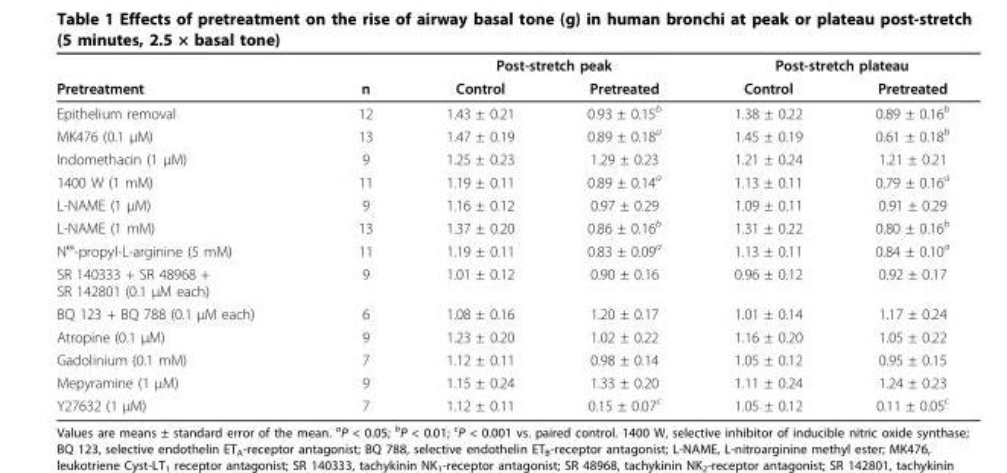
<table><thead><tr><td rowspan="2">Pretreatment</td><td rowspan="2">n</td><td colspan="2">Post-stretch peak</td><td colspan="2">Post-stretch plateau</td></tr><tr><td>Control</td><td>Pretreated</td><td>Control</td><td>Pretreated</td></tr></thead><tbody><tr><td>Epithelium removal</td><td>12</td><td>1.43 ± 0.21</td><td>0.93 ± 0.15<sup>b</sup></td><td>1.38 ± 0.22</td><td>0.89 ± 0.16<sup>b</sup></td></tr><tr><td>MK476 (0.1 μM)</td><td>13</td><td>1.47 ± 0.19</td><td>0.89 ± 0.18<sup>a</sup></td><td>1.45 ± 0.19</td><td>0.61 ± 0.18<sup>b</sup></td></tr><tr><td>Indomethacin (1 μM)</td><td>9</td><td>1.25 ± 0.23</td><td>1.29 ± 0.23</td><td>1.21 ± 0.24</td><td>1.21 ± 0.21</td></tr><tr><td>1400 W (1 mM)</td><td>11</td><td>1.19 ± 0.11</td><td>0.89 ± 0.14<sup>a</sup></td><td>1.13 ± 0.11</td><td>0.79 ± 0.16<sup>a</sup></td></tr><tr><td>L-NAME (1 μM)</td><td>9</td><td>1.16 ± 0.12</td><td>0.97 ± 0.29</td><td>1.09 ± 0.11</td><td>0.91 ± 0.29</td></tr><tr><td>L-NAME (1 mM)</td><td>13</td><td>1.37 ± 0.20</td><td>0.86 ± 0.16<sup>b</sup></td><td>1.31 ± 0.22</td><td>0.80 ± 0.16<sup>b</sup></td></tr><tr><td>N<sup>ω</sup>-propyl-L-arginine (5 mM)</td><td>11</td><td>1.19 ± 0.11</td><td>0.83 ± 0.09<sup>a</sup></td><td>1.13 ± 0.11</td><td>0.84 ± 0.10<sup>a</sup></td></tr><tr><td>SR 140333 + SR 48968 + SR 142801 (0.1 μM each)</td><td>9</td><td>1.01 ± 0.12</td><td>0.90 ± 0.16</td><td>0.96 ± 0.12</td><td>0.92 ± 0.17</td></tr><tr><td>BQ 123 + BQ 788 (0.1 μM each)</td><td>6</td><td>1.08 ± 0.16</td><td>1.20 ± 0.17</td><td>1.01 ± 0.14</td><td>1.17 ± 0.24</td></tr><tr><td>Atropine (0.1 μM)</td><td>9</td><td>1.23 ± 0.20</td><td>1.02 ± 0.22</td><td>1.16 ± 0.20</td><td>1.05 ± 0.22</td></tr><tr><td>Gadolinium (0.1 mM)</td><td>7</td><td>1.12 ± 0.11</td><td>0.98 ± 0.14</td><td>1.05 ± 0.12</td><td>0.95 ± 0.15</td></tr><tr><td>Mepyramine (1 μM)</td><td>9</td><td>1.15 ± 0.24</td><td>1.33 ± 0.20</td><td>1.11 ± 0.24</td><td>1.24 ± 0.23</td></tr><tr><td>Y27632 (1 μM)</td><td>7</td><td>1.12 ± 0.11</td><td>0.15 ± 0.07<sup>c</sup></td><td>1.05 ± 0.12</td><td>0.11 ± 0.05<sup>c</sup></td></tr></tbody></table>